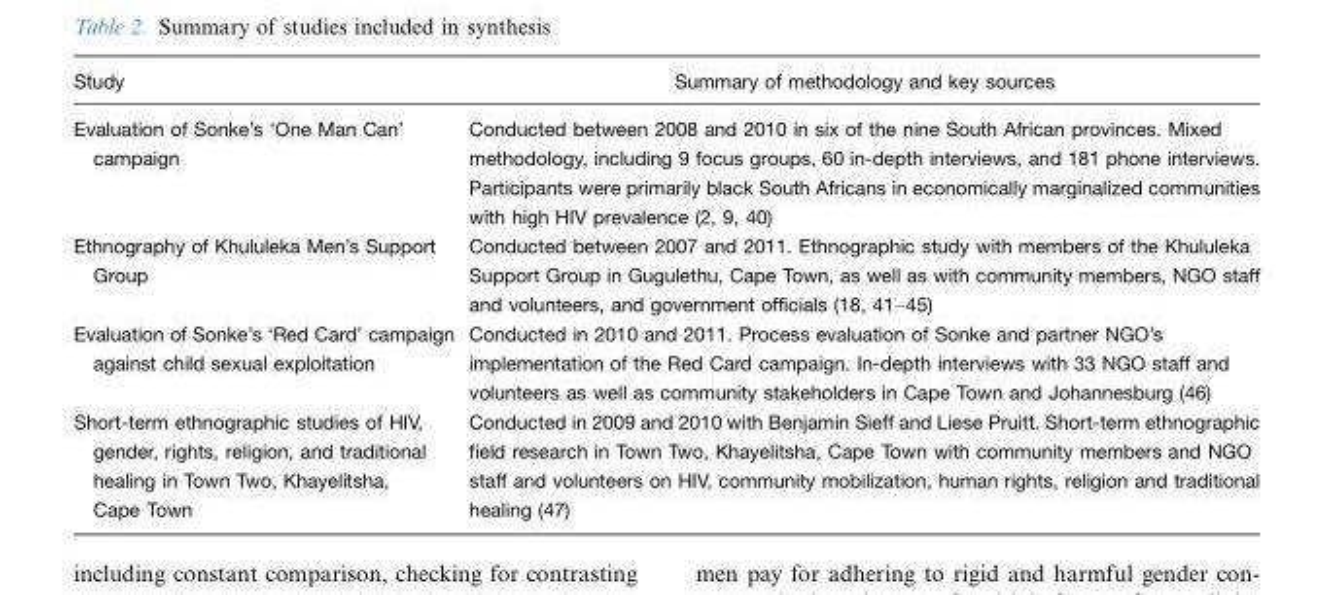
<table><thead><tr><td>Study</td><td>Summary of methodology and key sources</td></tr></thead><tbody><tr><td>Evaluation of Sonke’s ‘One Man Can’ campaign</td><td>Conducted between 2008 and 2010 in six of the nine South African provinces. Mixed methodology, including 9 focus groups, 60 in-depth interviews, and 181 phone interviews. Participants were primarily black South Africans in economically marginalized communities with high HIV prevalence (2, 9, 40)</td></tr><tr><td>Ethnography of Khululeka Men’s Support Group</td><td>Conducted between 2007 and 2011. Ethnographic study with members of the Khululeka Support Group in Gugulethu, Cape Town, as well as with community members, NGO staff and volunteers, and government officials (18, 41–45)</td></tr><tr><td>Evaluation of Sonke’s ‘Red Card’ campaign against child sexual exploitation</td><td>Conducted in 2010 and 2011. Process evaluation of Sonke and partner NGO’s implementation of the Red Card campaign. In-depth interviews with 33 NGO staff and volunteers as well as community stakeholders in Cape Town and Johannesburg (46)</td></tr><tr><td>Short-term ethnographic studies of HIV, gender, rights, religion, and traditional healing in Town Two, Khayelitsha, Cape Town</td><td>Conducted in 2009 and 2010 with Benjamin Sieff and Liese Pruitt. Short-term ethnographic field research in Town Two, Khayelitsha, Cape Town with community members and NGO staff and volunteers on HIV, community mobilization, human rights, religion and traditional healing (47)</td></tr></tbody></table>